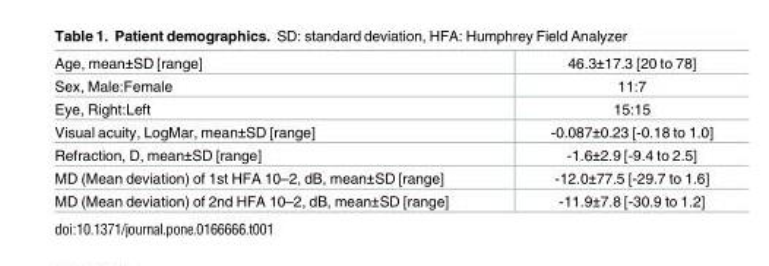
<table><tbody><tr><td>Age, mean±SD [range]</td><td>46.3±17.3 [20 to 78]</td></tr><tr><td>Sex, Male:Female</td><td>11:7</td></tr><tr><td>Eye, Right:Left</td><td>15:15</td></tr><tr><td>Visual acuity, LogMar, mean±SD [range]</td><td>-0.087±0.23 [-0.18 to 1.0]</td></tr><tr><td>Refraction, D, mean±SD [range]</td><td>-1.6±2.9 [-9.4 to 2.5]</td></tr><tr><td>MD (Mean deviation) of 1st HFA 10–2, dB, mean±SD [range]</td><td>-12.0±77.5 [-29.7 to 1.6]</td></tr><tr><td>MD (Mean deviation) of 2nd HFA 10–2, dB, mean±SD [range]</td><td>-11.9±7.8 [-30.9 to 1.2]</td></tr></tbody></table>